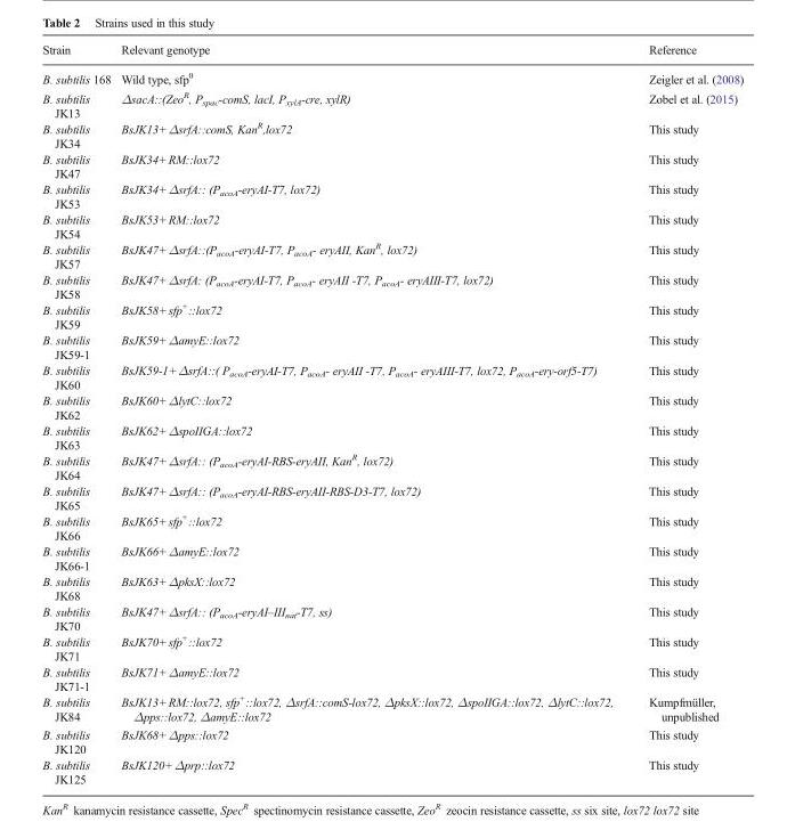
<table><thead><tr><td>Strain</td><td>Relevant genotype</td><td>Reference</td></tr></thead><tbody><tr><td>B. subtilis 168</td><td>Wild type, sfp<sup>0</sup></td><td>Zeigler et al. (2008)</td></tr><tr><td>B. subtilis JK13</td><td>ΔsacA::(Zeo<sup>R</sup>, P<sub>spac</sub>-comS, lacI, P<sub>xylA</sub>-cre, xylR)</td><td>Zobel et al. (2015)</td></tr><tr><td>B. subtilis JK34</td><td>BsJK13+ΔsrfA::comS, Kan<sup>R</sup>,lox72</td><td>This study</td></tr><tr><td>B. subtilis JK47</td><td>BsJK34+RM::lox72</td><td>This study</td></tr><tr><td>B. subtilis JK53</td><td>BsJK34+ΔsrfA:: (P<sub>acoA</sub>-eryAI-T7, lox72)</td><td>This study</td></tr><tr><td>B. subtilis JK54</td><td>BsJK53+RM::lox72</td><td>This study</td></tr><tr><td>B. subtilis JK57</td><td>BsJK47+ΔsrfA::(P<sub>acoA</sub>-eryAI-T7, P<sub>acoA</sub>- eryAII, Kan<sup>R</sup>, lox72)</td><td>This study</td></tr><tr><td>B. subtilis JK58</td><td>BsJK47+ΔsrfA: (P<sub>acoA</sub>-eryAI-T7, P<sub>acoA</sub>- eryAII -T7, P<sub>acoA</sub>- eryAIII-T7, lox72)</td><td>This study</td></tr><tr><td>B. subtilis JK59</td><td>BsJK58+sfp<sup>+</sup>::lox72</td><td>This study</td></tr><tr><td>B. subtilis JK59-1</td><td>BsJK59+ΔamyE::lox72</td><td>This study</td></tr><tr><td>B. subtilis JK60</td><td>BsJK59-1+ΔsrfA::( P<sub>acoA</sub>-eryAI-T7, P<sub>acoA</sub>- eryAII -T7, P<sub>acoA</sub>- eryAIII-T7, lox72, P<sub>acoA</sub>-ery-orf5-T7)</td><td>This study</td></tr><tr><td>B. subtilis JK62</td><td>BsJK60+ΔlytC::lox72</td><td>This study</td></tr><tr><td>B. subtilis JK63</td><td>BsJK62+ΔspoIIGA::lox72</td><td>This study</td></tr><tr><td>B. subtilis JK64</td><td>BsJK47+ΔsrfA:: (P<sub>acoA</sub>-eryAI-RBS-eryAII, Kan<sup>R</sup>, lox72)</td><td>This study</td></tr><tr><td>B. subtilis JK65</td><td>BsJK47+ΔsrfA:: (P<sub>acoA</sub>-eryAI-RBS-eryAII-RBS-D3-T7, lox72)</td><td>This study</td></tr><tr><td>B. subtilis JK66</td><td>BsJK65+sfp<sup>+</sup>::lox72</td><td>This study</td></tr><tr><td>B. subtilis JK66-1</td><td>BsJK66+ΔamyE::lox72</td><td>This study</td></tr><tr><td>B. subtilis JK68</td><td>BsJK63+ΔpksX::lox72</td><td>This study</td></tr><tr><td>B. subtilis JK70</td><td>BsJK47+ΔsrfA:: (P<sub>acoA</sub>-eryAI–III<sub>nat</sub>-T7, ss)</td><td>This study</td></tr><tr><td>B. subtilis JK71</td><td>BsJK70+sfp<sup>+</sup>::lox72</td><td>This study</td></tr><tr><td>B. subtilis JK71-1</td><td>BsJK71+ΔamyE::lox72</td><td>This study</td></tr><tr><td>B. subtilis JK84</td><td>BsJK13+RM::lox72, sfp<sup>+</sup>::lox72, ΔsrfA::comS-lox72, ΔpksX::lox72, ΔspoIIGA::lox72, ΔlytC::lox72, Δpps::lox72, ΔamyE::lox72</td><td>Kumpfmüller, unpublished</td></tr><tr><td>B. subtilis JK120</td><td>BsJK68+Δpps::lox72</td><td>This study</td></tr><tr><td>B. subtilis JK125</td><td>BsJK120+Δprp::lox72</td><td>This study</td></tr></tbody></table>